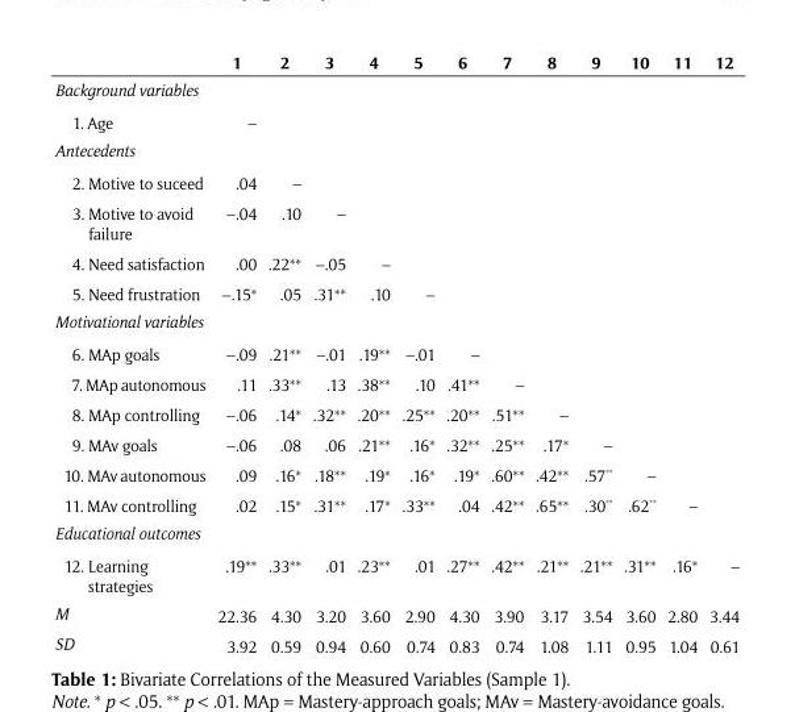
<table><thead><tr><td></td><td>1</td><td>2</td><td>3</td><td>4</td><td>5</td><td>6</td><td>7</td><td>8</td><td>9</td><td>10</td><td>11</td><td>12</td></tr></thead><tbody><tr><td colspan="13">Background variables</td></tr><tr><td>1. Age</td><td>–</td><td></td><td></td><td></td><td></td><td></td><td></td><td></td><td></td><td></td><td></td><td></td></tr><tr><td colspan="13">Antecedents</td></tr><tr><td>2. Motive to suceed</td><td>.04</td><td>–</td><td></td><td></td><td></td><td></td><td></td><td></td><td></td><td></td><td></td><td></td></tr><tr><td>3. Motive to avoid failure</td><td>–.04</td><td>.10</td><td>–</td><td></td><td></td><td></td><td></td><td></td><td></td><td></td><td></td><td></td></tr><tr><td>4. Need satisfaction</td><td>.00</td><td>.22**</td><td>–.05</td><td>–</td><td></td><td></td><td></td><td></td><td></td><td></td><td></td><td></td></tr><tr><td>5. Need frustration</td><td>–.15*</td><td>.05</td><td>.31**</td><td>.10</td><td>–</td><td></td><td></td><td></td><td></td><td></td><td></td><td></td></tr><tr><td colspan="13">Motivational variables</td></tr><tr><td>6. MAp goals</td><td>–.09</td><td>.21**</td><td>–.01</td><td>.19**</td><td>–.01</td><td>–</td><td></td><td></td><td></td><td></td><td></td><td></td></tr><tr><td>7. MAp autonomous</td><td>.11</td><td>.33**</td><td>.13</td><td>.38**</td><td>.10</td><td>.41**</td><td>–</td><td></td><td></td><td></td><td></td><td></td></tr><tr><td>8. MAp controlling</td><td>–.06</td><td>.14*</td><td>.32**</td><td>.20**</td><td>.25**</td><td>.20**</td><td>.51**</td><td>–</td><td></td><td></td><td></td><td></td></tr><tr><td>9. MAv goals</td><td>–.06</td><td>.08</td><td>.06</td><td>.21**</td><td>.16*</td><td>.32**</td><td>.25**</td><td>.17*</td><td>–</td><td></td><td></td><td></td></tr><tr><td>10. MAv autonomous</td><td>.09</td><td>.16*</td><td>.18**</td><td>.19*</td><td>.16*</td><td>.19*</td><td>.60**</td><td>.42**</td><td>.57**</td><td>–</td><td></td><td></td></tr><tr><td>11. MAv controlling</td><td>.02</td><td>.15*</td><td>.31**</td><td>.17*</td><td>.33**</td><td>.04</td><td>.42**</td><td>.65**</td><td>.30**</td><td>.62**</td><td>–</td><td></td></tr><tr><td colspan="13">Educational outcomes</td></tr><tr><td>12. Learning strategies</td><td>.19**</td><td>.33**</td><td>.01</td><td>.23**</td><td>.01</td><td>.27**</td><td>.42**</td><td>.21**</td><td>.21**</td><td>.31**</td><td>.16*</td><td>–</td></tr><tr><td>M</td><td>22.36</td><td>4.30</td><td>3.20</td><td>3.60</td><td>2.90</td><td>4.30</td><td>3.90</td><td>3.17</td><td>3.54</td><td>3.60</td><td>2.80</td><td>3.44</td></tr><tr><td>SD</td><td>3.92</td><td>0.59</td><td>0.94</td><td>0.60</td><td>0.74</td><td>0.83</td><td>0.74</td><td>1.08</td><td>1.11</td><td>0.95</td><td>1.04</td><td>0.61</td></tr></tbody></table>